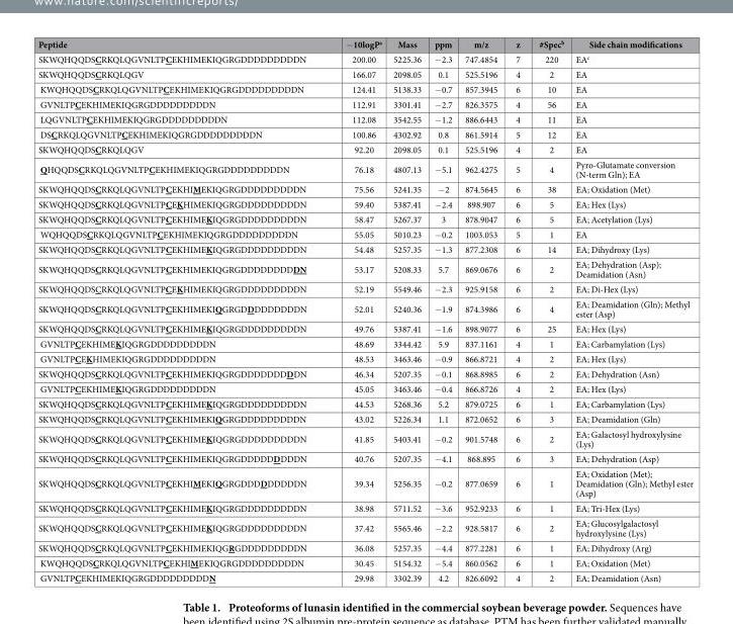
<table><thead><tr><td>Peptide</td><td>− 10logP<sup>a</sup></td><td>Mass</td><td>ppm</td><td>m/z</td><td>z</td><td>#Spec<sup>b</sup></td><td>Side chain modifications</td></tr></thead><tbody><tr><td>SKWQHQQDSCRKQLQGVNLTPCEKHIMEKIQGRGDDDDDDDDDN</td><td>200.00</td><td>5225.36</td><td>− 2.3</td><td>747.4854</td><td>7</td><td>220</td><td>EA<sup>c</sup></td></tr><tr><td>SKWQHQQDSCRKQLQGV</td><td>166.07</td><td>2098.05</td><td>0.1</td><td>525.5196</td><td>4</td><td>2</td><td>EA</td></tr><tr><td>KWQHQQDSCRKQLQGVNLTPCEKHIMEKIQGRGDDDDDDDDDN</td><td>124.41</td><td>5138.33</td><td>− 0.7</td><td>857.3945</td><td>6</td><td>10</td><td>EA</td></tr><tr><td>GVNLTPCEKHIMEKIQGRGDDDDDDDDDN</td><td>112.91</td><td>3301.41</td><td>− 2.7</td><td>826.3575</td><td>4</td><td>56</td><td>EA</td></tr><tr><td>LQGVNLTPCEKHIMEKIQGRGDDDDDDDDDN</td><td>112.08</td><td>3542.55</td><td>− 1.2</td><td>886.6443</td><td>4</td><td>11</td><td>EA</td></tr><tr><td>DSCRKQLQGVNLTPCEKHIMEKIQGRGDDDDDDDDDN</td><td>100.86</td><td>4302.92</td><td>0.8</td><td>861.5914</td><td>5</td><td>12</td><td>EA</td></tr><tr><td>SKWQHQQDSCRKQLQGV</td><td>92.20</td><td>2098.05</td><td>0.1</td><td>525.5196</td><td>4</td><td>2</td><td>EA</td></tr><tr><td>QHQQDSCRKQLQGVNLTPCEKHIMEKIQGRGDDDDDDDDDN</td><td>76.18</td><td>4807.13</td><td>− 5.1</td><td>962.4275</td><td>5</td><td>4</td><td>Pyro-Glutamate conversion (N-term Gln); EA</td></tr><tr><td>SKWQHQQDSCRKQLQGVNLTPCEKHIMEKIQGRGDDDDDDDDDN</td><td>75.56</td><td>5241.35</td><td>− 2</td><td>874.5645</td><td>6</td><td>38</td><td>EA; Oxidation (Met)</td></tr><tr><td>SKWQHQQDSCRKQLQGVNLTPCEKHIMEKIQGRGDDDDDDDDDN</td><td>59.40</td><td>5387.41</td><td>− 2.4</td><td>898.907</td><td>6</td><td>5</td><td>EA; Hex (Lys)</td></tr><tr><td>SKWQHQQDSCRKQLQGVNLTPCEKHIMEKIQGRGDDDDDDDDDN</td><td>58.47</td><td>5267.37</td><td>3</td><td>878.9047</td><td>6</td><td>5</td><td>EA; Acetylation (Lys)</td></tr><tr><td>WQHQQDSCRKQLQGVNLTPCEKHIMEKIQGRGDDDDDDDDDN</td><td>55.05</td><td>5010.23</td><td>− 0.2</td><td>1003.053</td><td>5</td><td>1</td><td>EA</td></tr><tr><td>SKWQHQQDSCRKQLQGVNLTPCEKHIMEKIQGRGDDDDDDDDDN</td><td>54.48</td><td>5257.35</td><td>− 1.3</td><td>877.2308</td><td>6</td><td>14</td><td>EA; Dihydroxy (Lys)</td></tr><tr><td>SKWQHQQDSCRKQLQGVNLTPCEKHIMEKIQGRGDDDDDDDDDN</td><td>53.17</td><td>5208.33</td><td>5.7</td><td>869.0676</td><td>6</td><td>2</td><td>EA; Dehydration (Asp); Deamidation (Asn)</td></tr><tr><td>SKWQHQQDSCRKQLQGVNLTPCEKHIMEKIQGRGDDDDDDDDDN</td><td>52.19</td><td>5549.46</td><td>− 2.3</td><td>925.9158</td><td>6</td><td>2</td><td>EA; Di-Hex (Lys)</td></tr><tr><td>SKWQHQQDSCRKQLQGVNLTPCEKHIMEKIQGRGDDDDDDDDDN</td><td>52.01</td><td>5240.36</td><td>− 1.9</td><td>874.3986</td><td>6</td><td>4</td><td>EA; Deamidation (Gln); Methyl ester (Asp)</td></tr><tr><td>SKWQHQQDSCRKQLQGVNLTPCEKHIMEKIQGRGDDDDDDDDDN</td><td>49.76</td><td>5387.41</td><td>− 1.6</td><td>898.9077</td><td>6</td><td>25</td><td>EA; Hex (Lys)</td></tr><tr><td>GVNLTPCEKHIMEKIQGRGDDDDDDDDDN</td><td>48.69</td><td>3344.42</td><td>5.9</td><td>837.1161</td><td>4</td><td>1</td><td>EA; Carbamylation (Lys)</td></tr><tr><td>GVNLTPCEKHIMEKIQGRGDDDDDDDDDN</td><td>48.53</td><td>3463.46</td><td>− 0.9</td><td>866.8721</td><td>4</td><td>2</td><td>EA; Hex (Lys)</td></tr><tr><td>SKWQHQQDSCRKQLQGVNLTPCEKHIMEKIQGRGDDDDDDDDDN</td><td>46.34</td><td>5207.35</td><td>− 0.1</td><td>868.8985</td><td>6</td><td>2</td><td>EA; Dehydration (Asn)</td></tr><tr><td>GVNLTPCEKHIMEKIQGRGDDDDDDDDDN</td><td>45.05</td><td>3463.46</td><td>− 0.4</td><td>866.8726</td><td>4</td><td>2</td><td>EA; Hex (Lys)</td></tr><tr><td>SKWQHQQDSCRKQLQGVNLTPCEKHIMEKIQGRGDDDDDDDDDN</td><td>44.53</td><td>5268.36</td><td>5.2</td><td>879.0725</td><td>6</td><td>1</td><td>EA; Carbamylation (Lys)</td></tr><tr><td>SKWQHQQDSCRKQLQGVNLTPCEKHIMEKIQGRGDDDDDDDDDN</td><td>43.02</td><td>5226.34</td><td>1.1</td><td>872.0652</td><td>6</td><td>3</td><td>EA; Deamidation (Gln)</td></tr><tr><td>SKWQHQQDSCRKQLQGVNLTPCEKHIMEKIQGRGDDDDDDDDDN</td><td>41.85</td><td>5403.41</td><td>− 0.2</td><td>901.5748</td><td>6</td><td>2</td><td>EA; Galactosyl hydroxylysine (Lys)</td></tr><tr><td>SKWQHQQDSCRKQLQGVNLTPCEKHIMEKIQGRGDDDDDDDDDN</td><td>40.76</td><td>5207.35</td><td>− 4.1</td><td>868.895</td><td>6</td><td>3</td><td>EA; Dehydration (Asp)</td></tr><tr><td>SKWQHQQDSCRKQLQGVNLTPCEKHIMEKIQGRGDDDDDDDDDN</td><td>39.34</td><td>5256.35</td><td>− 0.2</td><td>877.0659</td><td>6</td><td>1</td><td>EA; Oxidation (Met); Deamidation (Gln); Methyl ester (Asp)</td></tr><tr><td>SKWQHQQDSCRKQLQGVNLTPCEKHIMEKIQGRGDDDDDDDDDN</td><td>38.98</td><td>5711.52</td><td>− 3.6</td><td>952.9233</td><td>6</td><td>1</td><td>EA; Tri-Hex (Lys)</td></tr><tr><td>SKWQHQQDSCRKQLQGVNLTPCEKHIMEKIQGRGDDDDDDDDDN</td><td>37.42</td><td>5565.46</td><td>− 2.2</td><td>928.5817</td><td>6</td><td>2</td><td>EA; Glucosylgalactosyl hydroxylysine (Lys)</td></tr><tr><td>SKWQHQQDSCRKQLQGVNLTPCEKHIMEKIQGRGDDDDDDDDDN</td><td>36.08</td><td>5257.35</td><td>− 4.4</td><td>877.2281</td><td>6</td><td>1</td><td>EA; Dihydroxy (Arg)</td></tr><tr><td>KWQHQQDSCRKQLQGVNLTPCEKHIMEKIQGRGDDDDDDDDDN</td><td>30.45</td><td>5154.32</td><td>− 5.4</td><td>860.0562</td><td>6</td><td>1</td><td>EA; Oxidation (Met)</td></tr><tr><td>GVNLTPCEKHIMEKIQGRGDDDDDDDDDN</td><td>29.98</td><td>3302.39</td><td>4.2</td><td>826.6092</td><td>4</td><td>2</td><td>EA; Deamidation (Asn)</td></tr></tbody></table>